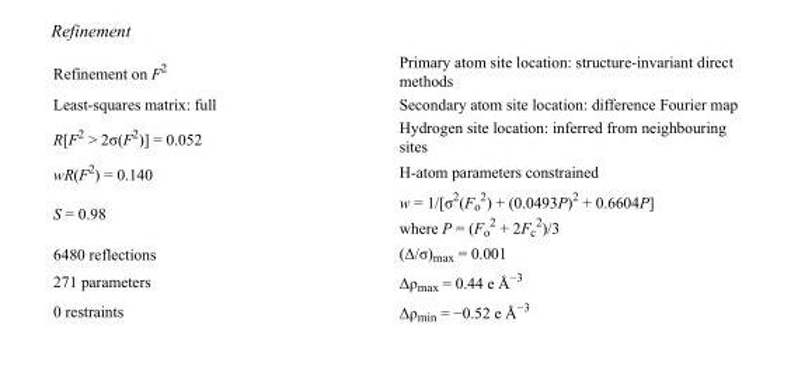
<table><tbody><tr><td>Refinement on F<sup>2</sup></td><td>Primary atom site location: structure-invariant direct methods</td></tr><tr><td>Least-squares matrix: full</td><td>Secondary atom site location: difference Fourier map</td></tr><tr><td>R[F<sup>2</sup> &gt; 2σ(F<sup>2</sup>)] = 0.052</td><td>Hydrogen site location: inferred from neighbouring sites</td></tr><tr><td>wR(F<sup>2</sup>) = 0.140</td><td>H-atom parameters constrained</td></tr><tr><td>S = 0.98</td><td>w = 1/[σ<sup>2</sup>(F<sub>o</sub> <sup>2</sup>) + (0.0493P)<sup>2</sup> + 0.6604P] where P = (F<sub>o</sub> <sup>2</sup> + 2F<sub>c</sub> <sup>2</sup>)/3</td></tr><tr><td>6480 reflections</td><td>(Δ/σ)<sub>max</sub> = 0.001</td></tr><tr><td>271 parameters</td><td>Δρ<sub>max</sub> = 0.44 e Å<sup>−3</sup></td></tr><tr><td>0 restraints</td><td>Δρ<sub>min</sub> = −0.52 e Å<sup>−3</sup></td></tr></tbody></table>